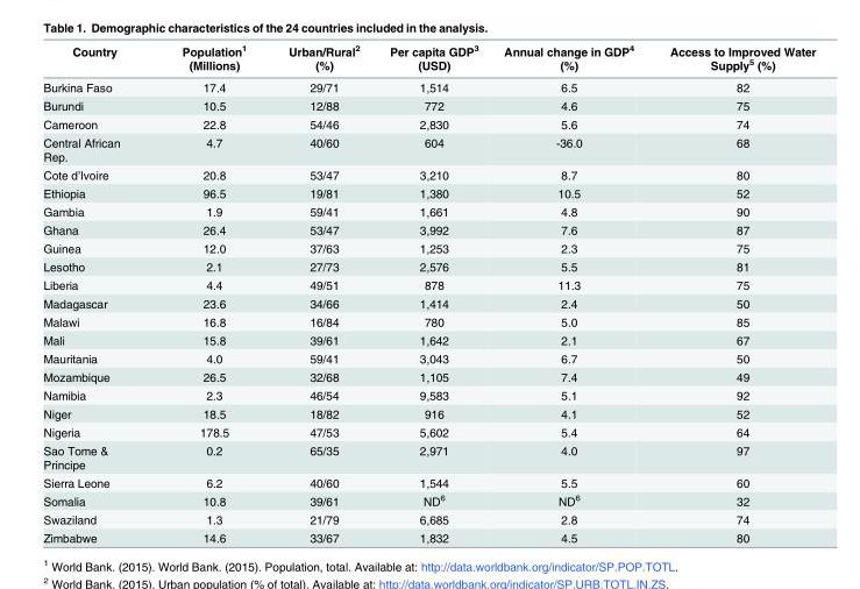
<table><thead><tr><td>Country</td><td>Population<sup>1</sup> (Millions)</td><td>Urban/Rural<sup>2</sup> (%)</td><td>Per capita GDP<sup>3</sup> (USD)</td><td>Annual change in GDP<sup>4</sup> (%)</td><td>Access to Improved Water Supply<sup>5</sup> (%)</td></tr></thead><tbody><tr><td>Burkina Faso</td><td>17.4</td><td>29/71</td><td>1,514</td><td>6.5</td><td>82</td></tr><tr><td>Burundi</td><td>10.5</td><td>12/88</td><td>772</td><td>4.6</td><td>75</td></tr><tr><td>Cameroon</td><td>22.8</td><td>54/46</td><td>2,830</td><td>5.6</td><td>74</td></tr><tr><td>Central African Rep.</td><td>4.7</td><td>40/60</td><td>604</td><td>-36.0</td><td>68</td></tr><tr><td>Cote d’Ivoire</td><td>20.8</td><td>53/47</td><td>3,210</td><td>8.7</td><td>80</td></tr><tr><td>Ethiopia</td><td>96.5</td><td>19/81</td><td>1,380</td><td>10.5</td><td>52</td></tr><tr><td>Gambia</td><td>1.9</td><td>59/41</td><td>1,661</td><td>4.8</td><td>90</td></tr><tr><td>Ghana</td><td>26.4</td><td>53/47</td><td>3,992</td><td>7.6</td><td>87</td></tr><tr><td>Guinea</td><td>12.0</td><td>37/63</td><td>1,253</td><td>2.3</td><td>75</td></tr><tr><td>Lesotho</td><td>2.1</td><td>27/73</td><td>2,576</td><td>5.5</td><td>81</td></tr><tr><td>Liberia</td><td>4.4</td><td>49/51</td><td>878</td><td>11.3</td><td>75</td></tr><tr><td>Madagascar</td><td>23.6</td><td>34/66</td><td>1,414</td><td>2.4</td><td>50</td></tr><tr><td>Malawi</td><td>16.8</td><td>16/84</td><td>780</td><td>5.0</td><td>85</td></tr><tr><td>Mali</td><td>15.8</td><td>39/61</td><td>1,642</td><td>2.1</td><td>67</td></tr><tr><td>Mauritania</td><td>4.0</td><td>59/41</td><td>3,043</td><td>6.7</td><td>50</td></tr><tr><td>Mozambique</td><td>26.5</td><td>32/68</td><td>1,105</td><td>7.4</td><td>49</td></tr><tr><td>Namibia</td><td>2.3</td><td>46/54</td><td>9,583</td><td>5.1</td><td>92</td></tr><tr><td>Niger</td><td>18.5</td><td>18/82</td><td>916</td><td>4.1</td><td>52</td></tr><tr><td>Nigeria</td><td>178.5</td><td>47/53</td><td>5,602</td><td>5.4</td><td>64</td></tr><tr><td>Sao Tome &amp; Principe</td><td>0.2</td><td>65/35</td><td>2,971</td><td>4.0</td><td>97</td></tr><tr><td>Sierra Leone</td><td>6.2</td><td>40/60</td><td>1,544</td><td>5.5</td><td>60</td></tr><tr><td>Somalia</td><td>10.8</td><td>39/61</td><td>ND<sup>6</sup></td><td>ND<sup>6</sup></td><td>32</td></tr><tr><td>Swaziland</td><td>1.3</td><td>21/79</td><td>6,685</td><td>2.8</td><td>74</td></tr><tr><td>Zimbabwe</td><td>14.6</td><td>33/67</td><td>1,832</td><td>4.5</td><td>80</td></tr></tbody></table>